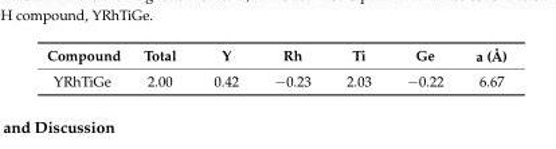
<table><thead><tr><td>Compound</td><td>Total</td><td>Y</td><td>Rh</td><td>Ti</td><td>Ge</td><td>a (Å)</td></tr></thead><tbody><tr><td>YRhTiGe</td><td>2.00</td><td>0.42</td><td>−0.23</td><td>2.03</td><td>−0.22</td><td>6.67</td></tr></tbody></table>